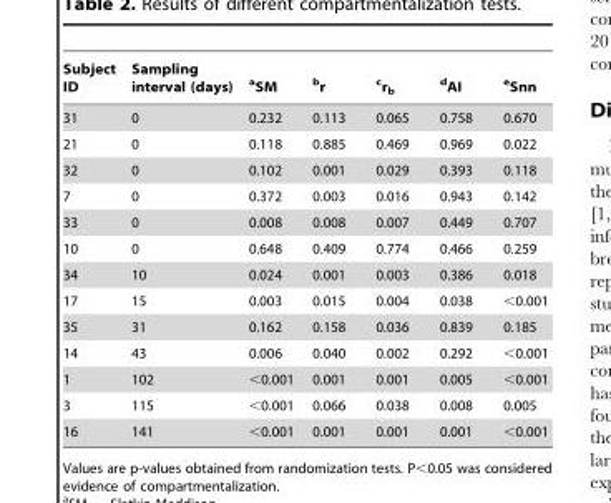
<table><thead><tr><td>Subject ID</td><td>Sampling interval (days)</td><td>aSM</td><td>br</td><td>cr<sub>b</sub></td><td>dAI</td><td>eSnn</td></tr></thead><tbody><tr><td>31</td><td>0</td><td>0.232</td><td>0.113</td><td>0.065</td><td>0.758</td><td>0.670</td></tr><tr><td>21</td><td>0</td><td>0.118</td><td>0.885</td><td>0.469</td><td>0.969</td><td>0.022</td></tr><tr><td>32</td><td>0</td><td>0.102</td><td>0.001</td><td>0.029</td><td>0.393</td><td>0.118</td></tr><tr><td>7</td><td>0</td><td>0.372</td><td>0.003</td><td>0.016</td><td>0.943</td><td>0.142</td></tr><tr><td>33</td><td>0</td><td>0.008</td><td>0.008</td><td>0.007</td><td>0.449</td><td>0.707</td></tr><tr><td>10</td><td>0</td><td>0.648</td><td>0.409</td><td>0.774</td><td>0.466</td><td>0.259</td></tr><tr><td>34</td><td>10</td><td>0.024</td><td>0.001</td><td>0.003</td><td>0.386</td><td>0.018</td></tr><tr><td>17</td><td>15</td><td>0.003</td><td>0.015</td><td>0.004</td><td>0.038</td><td>&lt;0.001</td></tr><tr><td>35</td><td>31</td><td>0.162</td><td>0.158</td><td>0.036</td><td>0.839</td><td>0.185</td></tr><tr><td>14</td><td>43</td><td>0.006</td><td>0.040</td><td>0.002</td><td>0.292</td><td>&lt;0.001</td></tr><tr><td>1</td><td>102</td><td>&lt;0.001</td><td>0.001</td><td>0.001</td><td>0.005</td><td>&lt;0.001</td></tr><tr><td>3</td><td>115</td><td>&lt;0.001</td><td>0.066</td><td>0.038</td><td>0.008</td><td>0.005</td></tr><tr><td>16</td><td>141</td><td>&lt;0.001</td><td>0.001</td><td>0.001</td><td>0.001</td><td>&lt;0.001</td></tr></tbody></table>